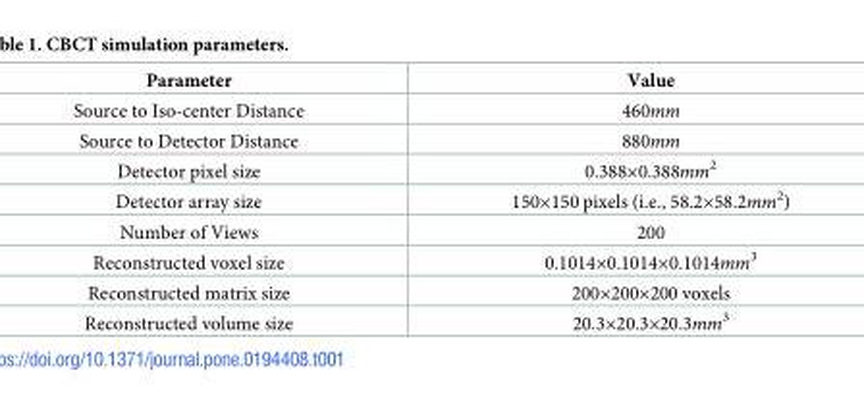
<table><thead><tr><td>Parameter</td><td>Value</td></tr></thead><tbody><tr><td>Source to Iso-center Distance</td><td>460mm</td></tr><tr><td>Source to Detector Distance</td><td>880mm</td></tr><tr><td>Detector pixel size</td><td>0.388×0.388mm<sup>2</sup></td></tr><tr><td>Detector array size</td><td>150×150 pixels (i.e., 58.2×58.2mm<sup>2</sup>)</td></tr><tr><td>Number of Views</td><td>200</td></tr><tr><td>Reconstructed voxel size</td><td>0.1014×0.1014×0.1014mm<sup>3</sup></td></tr><tr><td>Reconstructed matrix size</td><td>200×200×200 voxels</td></tr><tr><td>Reconstructed volume size</td><td>20.3×20.3×20.3mm<sup>3</sup></td></tr></tbody></table>